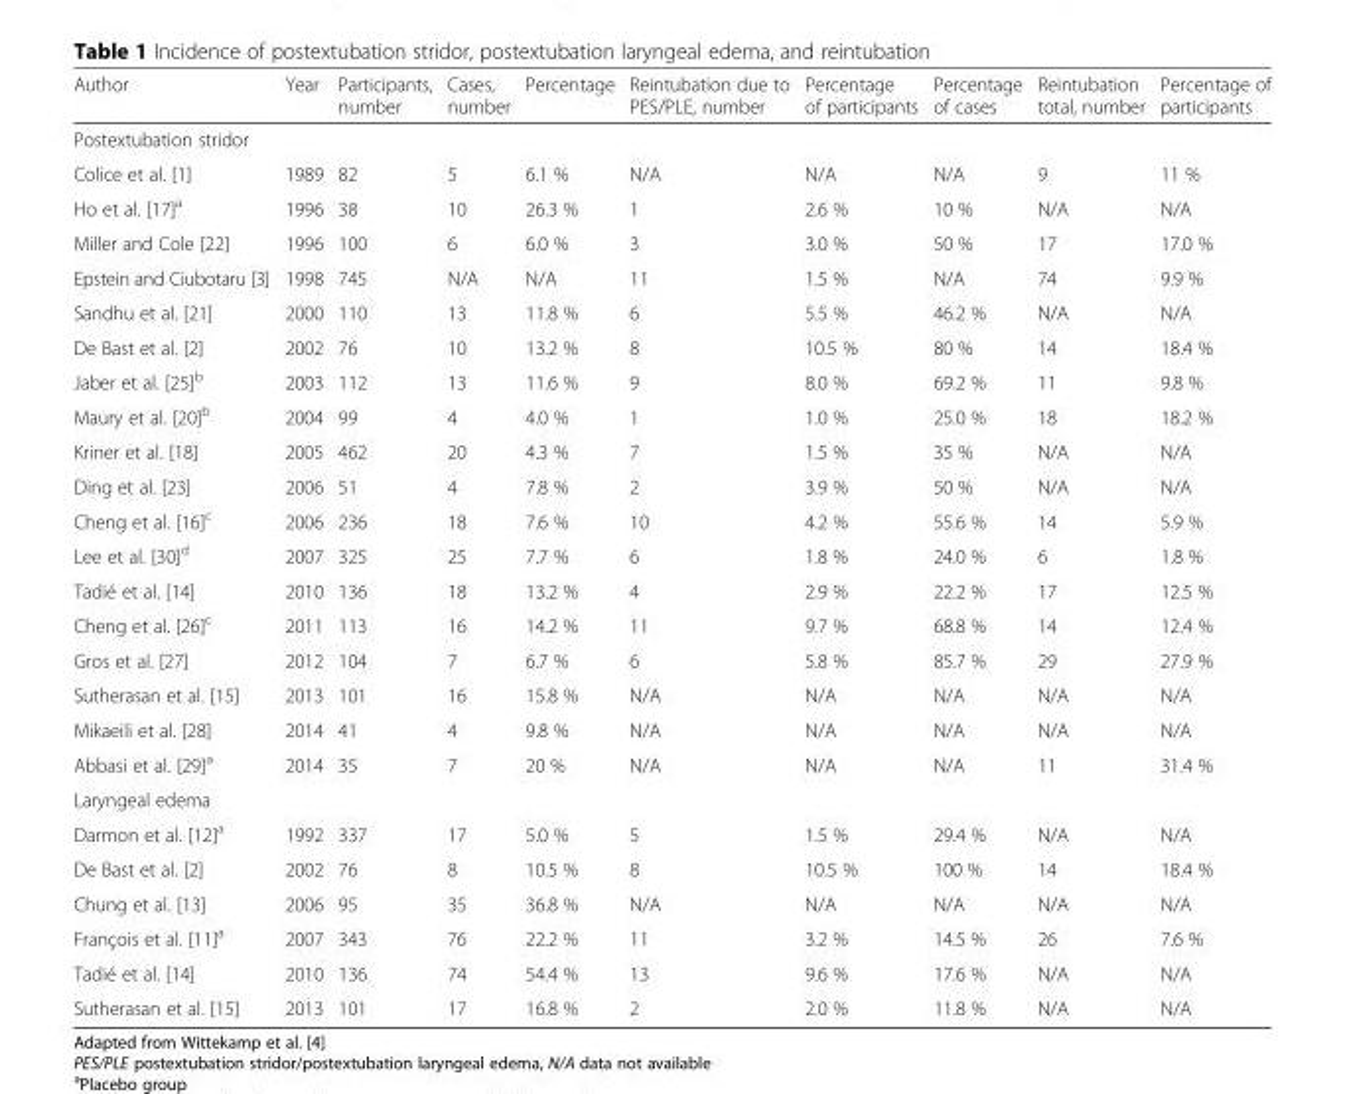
<table><thead><tr><td>Author</td><td>Year</td><td>Participants, number</td><td>Cases, number</td><td>Percentage</td><td>Reintubation due to PES/PLE, number</td><td>Percentage of participants</td><td>Percentage of cases</td><td>Reintubation total, number</td><td>Percentage of participants</td></tr></thead><tbody><tr><td colspan="10">Postextubation stridor</td></tr><tr><td>Colice et al. [1]</td><td>1989</td><td>82</td><td>5</td><td>6.1 %</td><td>N/A</td><td>N/A</td><td>N/A</td><td>9</td><td>11 %</td></tr><tr><td>Ho et al. [17]<sup>a</sup></td><td>1996</td><td>38</td><td>10</td><td>26.3 %</td><td>1</td><td>2.6 %</td><td>10 %</td><td>N/A</td><td>N/A</td></tr><tr><td>Miller and Cole [22]</td><td>1996</td><td>100</td><td>6</td><td>6.0 %</td><td>3</td><td>3.0 %</td><td>50 %</td><td>17</td><td>17.0 %</td></tr><tr><td>Epstein and Ciubotaru [3]</td><td>1998</td><td>745</td><td>N/A</td><td>N/A</td><td>11</td><td>1.5 %</td><td>N/A</td><td>74</td><td>9.9 %</td></tr><tr><td>Sandhu et al. [21]</td><td>2000</td><td>110</td><td>13</td><td>11.8 %</td><td>6</td><td>5.5 %</td><td>46.2 %</td><td>N/A</td><td>N/A</td></tr><tr><td>De Bast et al. [2]</td><td>2002</td><td>76</td><td>10</td><td>13.2 %</td><td>8</td><td>10.5 %</td><td>80 %</td><td>14</td><td>18.4 %</td></tr><tr><td>Jaber et al. [25]<sup>b</sup></td><td>2003</td><td>112</td><td>13</td><td>11.6 %</td><td>9</td><td>8.0 %</td><td>69.2 %</td><td>11</td><td>9.8 %</td></tr><tr><td>Maury et al. [20]<sup>b</sup></td><td>2004</td><td>99</td><td>4</td><td>4.0 %</td><td>1</td><td>1.0 %</td><td>25.0 %</td><td>18</td><td>18.2 %</td></tr><tr><td>Kriner et al. [18]</td><td>2005</td><td>462</td><td>20</td><td>4.3 %</td><td>7</td><td>1.5 %</td><td>35 %</td><td>N/A</td><td>N/A</td></tr><tr><td>Ding et al. [23]</td><td>2006</td><td>51</td><td>4</td><td>7.8 %</td><td>2</td><td>3.9 %</td><td>50 %</td><td>N/A</td><td>N/A</td></tr><tr><td>Cheng et al. [16]<sup>c</sup></td><td>2006</td><td>236</td><td>18</td><td>7.6 %</td><td>10</td><td>4.2 %</td><td>55.6 %</td><td>14</td><td>5.9 %</td></tr><tr><td>Lee et al. [30]<sup>d</sup></td><td>2007</td><td>325</td><td>25</td><td>7.7 %</td><td>6</td><td>1.8 %</td><td>24.0 %</td><td>6</td><td>1.8 %</td></tr><tr><td>Tadié et al. [14]</td><td>2010</td><td>136</td><td>18</td><td>13.2 %</td><td>4</td><td>2.9 %</td><td>22.2 %</td><td>17</td><td>12.5 %</td></tr><tr><td>Cheng et al. [26]<sup>c</sup></td><td>2011</td><td>113</td><td>16</td><td>14.2 %</td><td>11</td><td>9.7 %</td><td>68.8 %</td><td>14</td><td>12.4 %</td></tr><tr><td>Gros et al. [27]</td><td>2012</td><td>104</td><td>7</td><td>6.7 %</td><td>6</td><td>5.8 %</td><td>85.7 %</td><td>29</td><td>27.9 %</td></tr><tr><td>Sutherasan et al. [15]</td><td>2013</td><td>101</td><td>16</td><td>15.8 %</td><td>N/A</td><td>N/A</td><td>N/A</td><td>N/A</td><td>N/A</td></tr><tr><td>Mikaeili et al. [28]</td><td>2014</td><td>41</td><td>4</td><td>9.8 %</td><td>N/A</td><td>N/A</td><td>N/A</td><td>N/A</td><td>N/A</td></tr><tr><td>Abbasi et al. [29]<sup>a</sup></td><td>2014</td><td>35</td><td>7</td><td>20 %</td><td>N/A</td><td>N/A</td><td>N/A</td><td>11</td><td>31.4 %</td></tr><tr><td colspan="10">Laryngeal edema</td></tr><tr><td>Darmon et al. [12]<sup>a</sup></td><td>1992</td><td>337</td><td>17</td><td>5.0 %</td><td>5</td><td>1.5 %</td><td>29.4 %</td><td>N/A</td><td>N/A</td></tr><tr><td>De Bast et al. [2]</td><td>2002</td><td>76</td><td>8</td><td>10.5 %</td><td>8</td><td>10.5 %</td><td>100 %</td><td>14</td><td>18.4 %</td></tr><tr><td>Chung et al. [13]</td><td>2006</td><td>95</td><td>35</td><td>36.8 %</td><td>N/A</td><td>N/A</td><td>N/A</td><td>N/A</td><td>N/A</td></tr><tr><td>François et al. [11]<sup>a</sup></td><td>2007</td><td>343</td><td>76</td><td>22.2 %</td><td>11</td><td>3.2 %</td><td>14.5 %</td><td>26</td><td>7.6 %</td></tr><tr><td>Tadié et al. [14]</td><td>2010</td><td>136</td><td>74</td><td>54.4 %</td><td>13</td><td>9.6 %</td><td>17.6 %</td><td>N/A</td><td>N/A</td></tr><tr><td>Sutherasan et al. [15]</td><td>2013</td><td>101</td><td>17</td><td>16.8 %</td><td>2</td><td>2.0 %</td><td>11.8 %</td><td>N/A</td><td>N/A</td></tr></tbody></table>